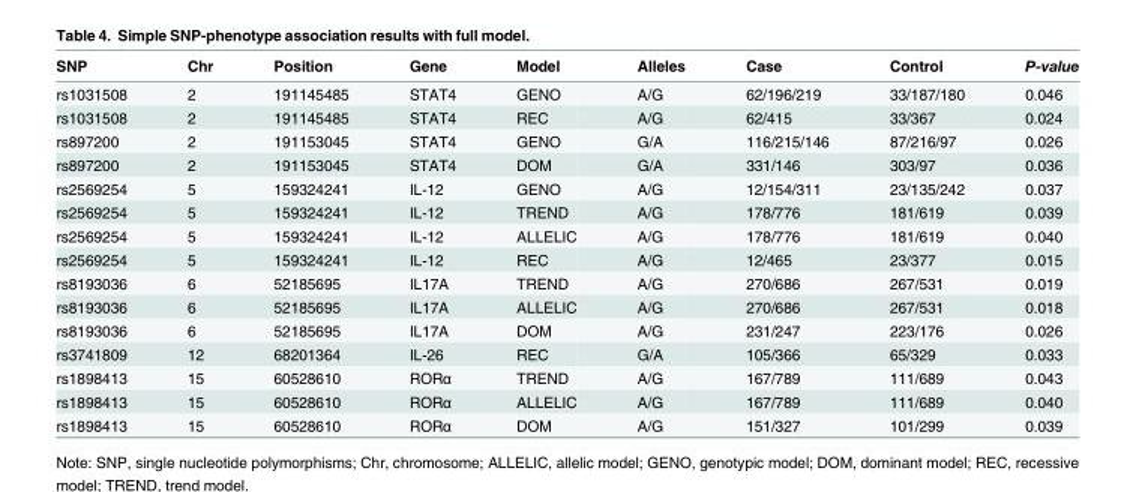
<table><thead><tr><td>SNP</td><td>Chr</td><td>Position</td><td>Gene</td><td>Model</td><td>Alleles</td><td>Case</td><td>Control</td><td>P-value</td></tr></thead><tbody><tr><td>rs1031508</td><td>2</td><td>191145485</td><td>STAT4</td><td>GENO</td><td>A/G</td><td>62/196/219</td><td>33/187/180</td><td>0.046</td></tr><tr><td>rs1031508</td><td>2</td><td>191145485</td><td>STAT4</td><td>REC</td><td>A/G</td><td>62/415</td><td>33/367</td><td>0.024</td></tr><tr><td>rs897200</td><td>2</td><td>191153045</td><td>STAT4</td><td>GENO</td><td>G/A</td><td>116/215/146</td><td>87/216/97</td><td>0.026</td></tr><tr><td>rs897200</td><td>2</td><td>191153045</td><td>STAT4</td><td>DOM</td><td>G/A</td><td>331/146</td><td>303/97</td><td>0.036</td></tr><tr><td>rs2569254</td><td>5</td><td>159324241</td><td>IL-12</td><td>GENO</td><td>A/G</td><td>12/154/311</td><td>23/135/242</td><td>0.037</td></tr><tr><td>rs2569254</td><td>5</td><td>159324241</td><td>IL-12</td><td>TREND</td><td>A/G</td><td>178/776</td><td>181/619</td><td>0.039</td></tr><tr><td>rs2569254</td><td>5</td><td>159324241</td><td>IL-12</td><td>ALLELIC</td><td>A/G</td><td>178/776</td><td>181/619</td><td>0.040</td></tr><tr><td>rs2569254</td><td>5</td><td>159324241</td><td>IL-12</td><td>REC</td><td>A/G</td><td>12/465</td><td>23/377</td><td>0.015</td></tr><tr><td>rs8193036</td><td>6</td><td>52185695</td><td>IL17A</td><td>TREND</td><td>A/G</td><td>270/686</td><td>267/531</td><td>0.019</td></tr><tr><td>rs8193036</td><td>6</td><td>52185695</td><td>IL17A</td><td>ALLELIC</td><td>A/G</td><td>270/686</td><td>267/531</td><td>0.018</td></tr><tr><td>rs8193036</td><td>6</td><td>52185695</td><td>IL17A</td><td>DOM</td><td>A/G</td><td>231/247</td><td>223/176</td><td>0.026</td></tr><tr><td>rs3741809</td><td>12</td><td>68201364</td><td>IL-26</td><td>REC</td><td>G/A</td><td>105/366</td><td>65/329</td><td>0.033</td></tr><tr><td>rs1898413</td><td>15</td><td>60528610</td><td>RORα</td><td>TREND</td><td>A/G</td><td>167/789</td><td>111/689</td><td>0.043</td></tr><tr><td>rs1898413</td><td>15</td><td>60528610</td><td>RORα</td><td>ALLELIC</td><td>A/G</td><td>167/789</td><td>111/689</td><td>0.040</td></tr><tr><td>rs1898413</td><td>15</td><td>60528610</td><td>RORα</td><td>DOM</td><td>A/G</td><td>151/327</td><td>101/299</td><td>0.039</td></tr></tbody></table>